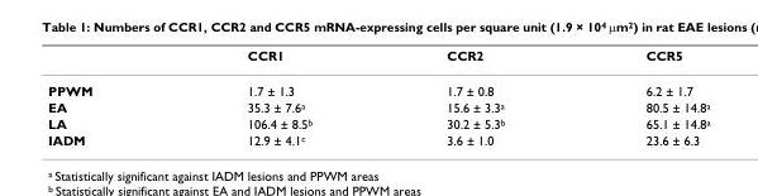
<table><thead><tr><td></td><td>CCR1</td><td>CCR2</td><td>CCR5</td></tr></thead><tbody><tr><td>PPWM</td><td>1.7 ± 1.3</td><td>1.7 ± 0.8</td><td>6.2 ± 1.7</td></tr><tr><td>EA</td><td>35.3 ± 7.6<sup>a</sup></td><td>15.6 ± 3.3<sup>a</sup></td><td>80.5 ± 14.8<sup>a</sup></td></tr><tr><td>LA</td><td>106.4 ± 8.5<sup>b</sup></td><td>30.2 ± 5.3<sup>b</sup></td><td>65.1 ± 14.8<sup>a</sup></td></tr><tr><td>IADM</td><td>12.9 ± 4.1<sup>c</sup></td><td>3.6 ± 1.0</td><td>23.6 ± 6.3</td></tr></tbody></table>